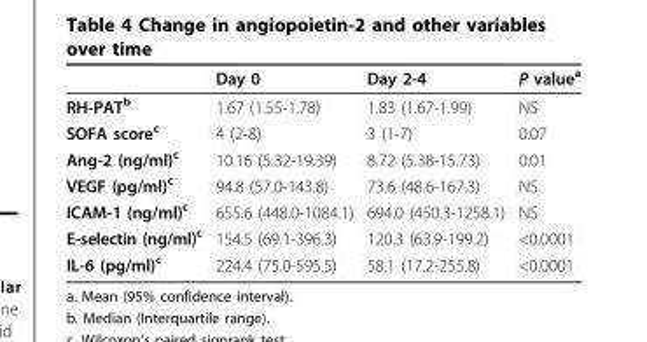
<table><thead><tr><td></td><td>Day 0</td><td>Day 2-4</td><td>P value<sup>a</sup></td></tr></thead><tbody><tr><td>RH-PAT<sup>b</sup></td><td>1.67 (1.55-1.78)</td><td>1.83 (1.67-1.99)</td><td>NS</td></tr><tr><td>SOFA score<sup>c</sup></td><td>4 (2-8)</td><td>3 (1-7)</td><td>0.07</td></tr><tr><td>Ang-2 (ng/ml)<sup>c</sup></td><td>10.16 (5.32-19.39)</td><td>8.72 (5.38-15.73)</td><td>0.01</td></tr><tr><td>VEGF (pg/ml)<sup>c</sup></td><td>94.8 (57.0-143.8)</td><td>73.6 (48.6-167.3)</td><td>NS</td></tr><tr><td>ICAM-1 (ng/ml)<sup>c</sup></td><td>655.6 (448.0-1084.1)</td><td>694.0 (450.3-1258.1)</td><td>NS</td></tr><tr><td>E-selectin (ng/ml)<sup>c</sup></td><td>154.5 (69.1-396.3)</td><td>120.3 (63.9-199.2)</td><td>&lt;0.0001</td></tr><tr><td>IL-6 (pg/ml)<sup>c</sup></td><td>224.4 (75.0-595.5)</td><td>58.1 (17.2-255.8)</td><td>&lt;0.0001</td></tr></tbody></table>